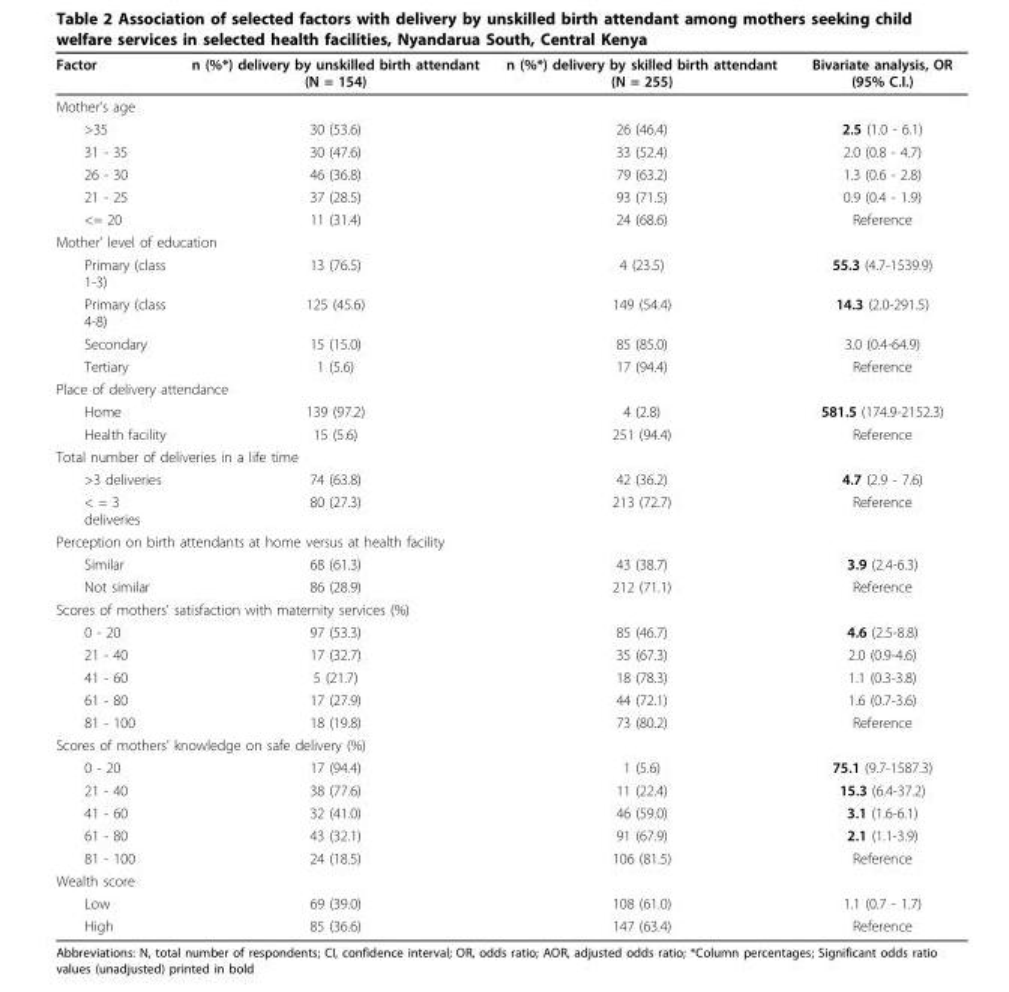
<table><thead><tr><td>Factor</td><td>n (%*) delivery by unskilled birth attendant (N = 154)</td><td>n (%*) delivery by skilled birth attendant (N = 255)</td><td>Bivariate analysis, OR (95% C.I.)</td></tr></thead><tbody><tr><td colspan="4">Mother’s age</td></tr><tr><td>&gt;35</td><td>30 (53.6)</td><td>26 (46.4)</td><td>2.5 (1.0 - 6.1)</td></tr><tr><td>31 - 35</td><td>30 (47.6)</td><td>33 (52.4)</td><td>2.0 (0.8 - 4.7)</td></tr><tr><td>26 - 30</td><td>46 (36.8)</td><td>79 (63.2)</td><td>1.3 (0.6 - 2.8)</td></tr><tr><td>21 - 25</td><td>37 (28.5)</td><td>93 (71.5)</td><td>0.9 (0.4 - 1.9)</td></tr><tr><td>&lt;= 20</td><td>11 (31.4)</td><td>24 (68.6)</td><td>Reference</td></tr><tr><td colspan="4">Mother’ level of education</td></tr><tr><td>Primary (class 1-3)</td><td>13 (76.5)</td><td>4 (23.5)</td><td>55.3 (4.7-1539.9)</td></tr><tr><td>Primary (class 4-8)</td><td>125 (45.6)</td><td>149 (54.4)</td><td>14.3 (2.0-291.5)</td></tr><tr><td>Secondary</td><td>15 (15.0)</td><td>85 (85.0)</td><td>3.0 (0.4-64.9)</td></tr><tr><td>Tertiary</td><td>1 (5.6)</td><td>17 (94.4)</td><td>Reference</td></tr><tr><td colspan="4">Place of delivery attendance</td></tr><tr><td>Home</td><td>139 (97.2)</td><td>4 (2.8)</td><td>581.5 (174.9-2152.3)</td></tr><tr><td>Health facility</td><td>15 (5.6)</td><td>251 (94.4)</td><td>Reference</td></tr><tr><td colspan="4">Total number of deliveries in a life time</td></tr><tr><td>&gt;3 deliveries</td><td>74 (63.8)</td><td>42 (36.2)</td><td>4.7 (2.9 - 7.6)</td></tr><tr><td>&lt; = 3 deliveries</td><td>80 (27.3)</td><td>213 (72.7)</td><td>Reference</td></tr><tr><td colspan="4">Perception on birth attendants at home versus at health facility</td></tr><tr><td>Similar</td><td>68 (61.3)</td><td>43 (38.7)</td><td>3.9 (2.4-6.3)</td></tr><tr><td>Not similar</td><td>86 (28.9)</td><td>212 (71.1)</td><td>Reference</td></tr><tr><td colspan="4">Scores of mothers’ satisfaction with maternity services (%)</td></tr><tr><td>0 - 20</td><td>97 (53.3)</td><td>85 (46.7)</td><td>4.6 (2.5-8.8)</td></tr><tr><td>21 - 40</td><td>17 (32.7)</td><td>35 (67.3)</td><td>2.0 (0.9-4.6)</td></tr><tr><td>41 - 60</td><td>5 (21.7)</td><td>18 (78.3)</td><td>1.1 (0.3-3.8)</td></tr><tr><td>61 - 80</td><td>17 (27.9)</td><td>44 (72.1)</td><td>1.6 (0.7-3.6)</td></tr><tr><td>81 - 100</td><td>18 (19.8)</td><td>73 (80.2)</td><td>Reference</td></tr><tr><td colspan="4">Scores of mothers’ knowledge on safe delivery (%)</td></tr><tr><td>0 - 20</td><td>17 (94.4)</td><td>1 (5.6)</td><td>75.1 (9.7-1587.3)</td></tr><tr><td>21 - 40</td><td>38 (77.6)</td><td>11 (22.4)</td><td>15.3 (6.4-37.2)</td></tr><tr><td>41 - 60</td><td>32 (41.0)</td><td>46 (59.0)</td><td>3.1 (1.6-6.1)</td></tr><tr><td>61 - 80</td><td>43 (32.1)</td><td>91 (67.9)</td><td>2.1 (1.1-3.9)</td></tr><tr><td>81 - 100</td><td>24 (18.5)</td><td>106 (81.5)</td><td>Reference</td></tr><tr><td colspan="4">Wealth score</td></tr><tr><td>Low</td><td>69 (39.0)</td><td>108 (61.0)</td><td>1.1 (0.7 - 1.7)</td></tr><tr><td>High</td><td>85 (36.6)</td><td>147 (63.4)</td><td>Reference</td></tr></tbody></table>